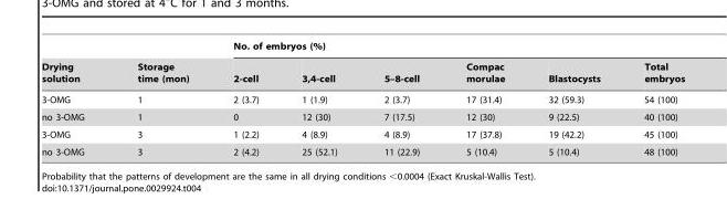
<table><thead><tr><td rowspan="2">Drying solution</td><td rowspan="2">Storage time (mon)</td><td colspan="6">No. of embryos (%)</td></tr><tr><td>2-cell</td><td>3,4-cell</td><td>5–8-cell</td><td>Compac morulae</td><td>Blastocysts</td><td>Total embryos</td></tr></thead><tbody><tr><td>3-OMG</td><td>1</td><td>2 (3.7)</td><td>1 (1.9)</td><td>2 (3.7)</td><td>17 (31.4)</td><td>32 (59.3)</td><td>54 (100)</td></tr><tr><td>no 3-OMG</td><td>1</td><td>0</td><td>12 (30)</td><td>7 (17.5)</td><td>12 (30)</td><td>9 (22.5)</td><td>40 (100)</td></tr><tr><td>3-OMG</td><td>3</td><td>1 (2.2)</td><td>4 (8.9)</td><td>4 (8.9)</td><td>17 (37.8)</td><td>19 (42.2)</td><td>45 (100)</td></tr><tr><td>no 3-OMG</td><td>3</td><td>2 (4.2)</td><td>25 (52.1)</td><td>11 (22.9)</td><td>5 (10.4)</td><td>5 (10.4)</td><td>48 (100)</td></tr></tbody></table>